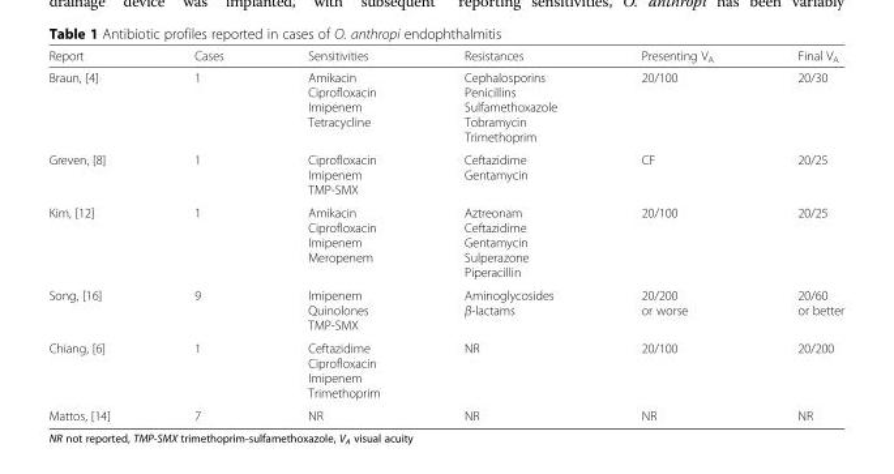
<table><thead><tr><td>Report</td><td>Cases</td><td>Sensitivities</td><td>Resistances</td><td>Presenting V<sub>A</sub></td><td>Final V<sub>A</sub></td></tr></thead><tbody><tr><td>Braun, [4]</td><td>1</td><td>Amikacin Ciprofloxacin Imipenem Tetracycline</td><td>Cephalosporins Penicillins Sulfamethoxazole Tobramycin Trimethoprim</td><td>20/100</td><td>20/30</td></tr><tr><td>Greven, [8]</td><td>1</td><td>Ciprofloxacin Imipenem TMP-SMX</td><td>Ceftazidime Gentamycin</td><td>CF</td><td>20/25</td></tr><tr><td>Kim, [12]</td><td>1</td><td>Amikacin Ciprofloxacin Imipenem Meropenem</td><td>Aztreonam Ceftazidime Gentamycin Sulperazone Piperacillin</td><td>20/100</td><td>20/25</td></tr><tr><td>Song, [16]</td><td>9</td><td>Imipenem Quinolones TMP-SMX</td><td>Aminoglycosides β-lactams</td><td>20/200 or worse</td><td>20/60 or better</td></tr><tr><td>Chiang, [6]</td><td>1</td><td>Ceftazidime Ciprofloxacin Imipenem Trimethoprim</td><td>NR</td><td>20/100</td><td>20/200</td></tr><tr><td>Mattos, [14]</td><td>7</td><td>NR</td><td>NR</td><td>NR</td><td>NR</td></tr></tbody></table>